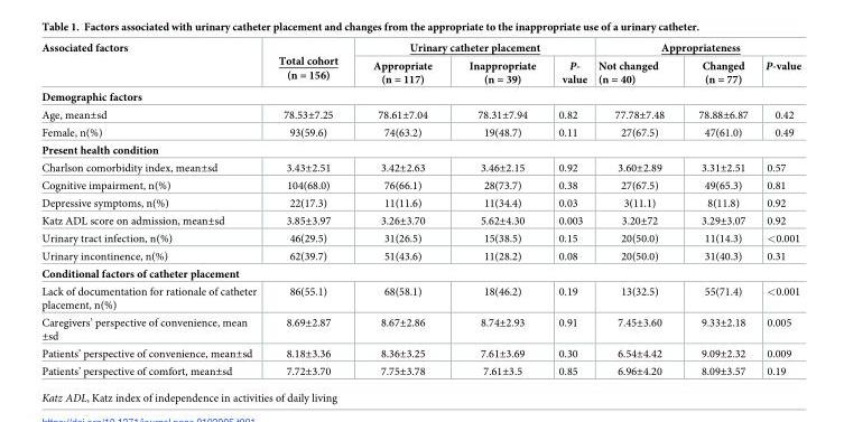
<table><thead><tr><td rowspan="2">Associated factors</td><td rowspan="2">Total cohort (n = 156)</td><td colspan="3">Urinary catheter placement</td><td colspan="3">Appropriateness</td></tr><tr><td>Appropriate (n = 117)</td><td>Inappropriate (n = 39)</td><td>P- value</td><td>Not changed (n = 40)</td><td>Changed (n = 77)</td><td>P-value</td></tr></thead><tbody><tr><td colspan="8">Demographic factors</td></tr><tr><td>Age, mean±sd</td><td>78.53±7.25</td><td>78.61±7.04</td><td>78.31±7.94</td><td>0.82</td><td>77.78±7.48</td><td>78.88±6.87</td><td>0.42</td></tr><tr><td>Female, n(%)</td><td>93(59.6)</td><td>74(63.2)</td><td>19(48.7)</td><td>0.11</td><td>27(67.5)</td><td>47(61.0)</td><td>0.49</td></tr><tr><td colspan="8">Present health condition</td></tr><tr><td>Charlson comorbidity index, mean±sd</td><td>3.43±2.51</td><td>3.42±2.63</td><td>3.46±2.15</td><td>0.92</td><td>3.60±2.89</td><td>3.31±2.51</td><td>0.57</td></tr><tr><td>Cognitive impairment, n(%)</td><td>104(68.0)</td><td>76(66.1)</td><td>28(73.7)</td><td>0.38</td><td>27(67.5)</td><td>49(65.3)</td><td>0.81</td></tr><tr><td>Depressive symptoms, n(%)</td><td>22(17.3)</td><td>11(11.6)</td><td>11(34.4)</td><td>0.03</td><td>3(11.1)</td><td>8(11.8)</td><td>0.92</td></tr><tr><td>Katz ADL score on admission, mean±sd</td><td>3.85±3.97</td><td>3.26±3.70</td><td>5.62±4.30</td><td>0.003</td><td>3.20±72</td><td>3.29±3.07</td><td>0.92</td></tr><tr><td>Urinary tract infection, n(%)</td><td>46(29.5)</td><td>31(26.5)</td><td>15(38.5)</td><td>0.15</td><td>20(50.0)</td><td>11(14.3)</td><td>&lt;0.001</td></tr><tr><td>Urinary incontinence, n(%)</td><td>62(39.7)</td><td>51(43.6)</td><td>11(28.2)</td><td>0.08</td><td>20(50.0)</td><td>31(40.3)</td><td>0.31</td></tr><tr><td colspan="8">Conditional factors of catheter placement</td></tr><tr><td>Lack of documentation for rationale of catheter placement, n(%)</td><td>86(55.1)</td><td>68(58.1)</td><td>18(46.2)</td><td>0.19</td><td>13(32.5)</td><td>55(71.4)</td><td>&lt;0.001</td></tr><tr><td>Caregivers’ perspective of convenience, mean ±sd</td><td>8.69±2.87</td><td>8.67±2.86</td><td>8.74±2.93</td><td>0.91</td><td>7.45±3.60</td><td>9.33±2.18</td><td>0.005</td></tr><tr><td>Patients’ perspective of convenience, mean±sd</td><td>8.18±3.36</td><td>8.36±3.25</td><td>7.61±3.69</td><td>0.30</td><td>6.54±4.42</td><td>9.09±2.32</td><td>0.009</td></tr><tr><td>Patients’ perspective of comfort, mean±sd</td><td>7.72±3.70</td><td>7.75±3.78</td><td>7.61±3.5</td><td>0.85</td><td>6.96±4.20</td><td>8.09±3.57</td><td>0.19</td></tr></tbody></table>